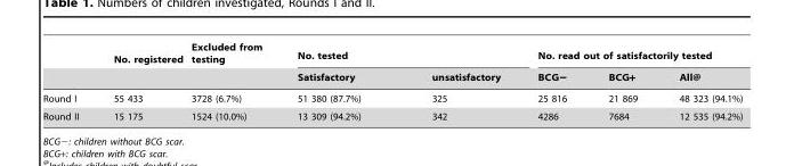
<table><thead><tr><td rowspan="2"></td><td rowspan="2">No. registered</td><td rowspan="2">Excluded from testing</td><td colspan="2">No. tested</td><td colspan="3">No. read out of satisfactorily tested</td></tr><tr><td>Satisfactory</td><td>unsatisfactory</td><td>BCG−</td><td>BCG+</td><td>All@</td></tr></thead><tbody><tr><td>Round I</td><td>55 433</td><td>3728 (6.7%)</td><td>51 380 (87.7%)</td><td>325</td><td>25 816</td><td>21 869</td><td>48 323 (94.1%)</td></tr><tr><td>Round II</td><td>15 175</td><td>1524 (10.0%)</td><td>13 309 (94.2%)</td><td>342</td><td>4286</td><td>7684</td><td>12 535 (94.2%)</td></tr></tbody></table>